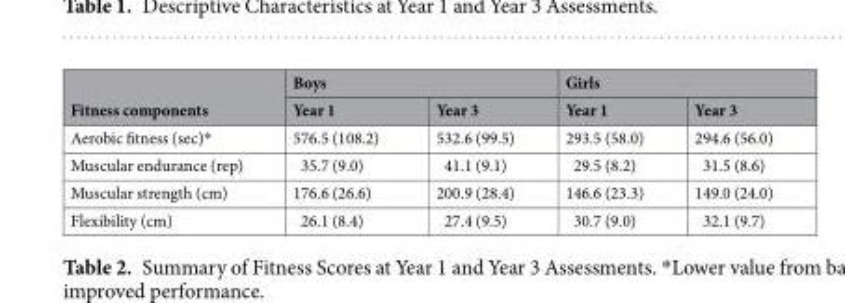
<table><thead><tr><td rowspan="2">Fitness components</td><td colspan="2">Boys</td><td colspan="2">Girls</td></tr><tr><td>Year 1</td><td>Year 3</td><td>Year 1</td><td>Year 3</td></tr></thead><tbody><tr><td>Aerobic fitness (sec)*</td><td>576.5 (108.2)</td><td>532.6 (99.5)</td><td>293.5 (58.0)</td><td>294.6 (56.0)</td></tr><tr><td>Muscular endurance (rep)</td><td>35.7 (9.0)</td><td>41.1 (9.1)</td><td>29.5 (8.2)</td><td>31.5 (8.6)</td></tr><tr><td>Muscular strength (cm)</td><td>176.6 (26.6)</td><td>200.9 (28.4)</td><td>146.6 (23.3)</td><td>149.0 (24.0)</td></tr><tr><td>Flexibility (cm)</td><td>26.1 (8.4)</td><td>27.4 (9.5)</td><td>30.7 (9.0)</td><td>32.1 (9.7)</td></tr></tbody></table>